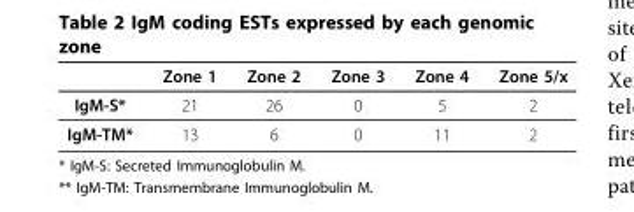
<table><thead><tr><td></td><td>Zone 1</td><td>Zone 2</td><td>Zone 3</td><td>Zone 4</td><td>Zone 5/x</td></tr></thead><tbody><tr><td>IgM-S*</td><td>21</td><td>26</td><td>0</td><td>5</td><td>2</td></tr><tr><td>IgM-TM*</td><td>13</td><td>6</td><td>0</td><td>11</td><td>2</td></tr></tbody></table>